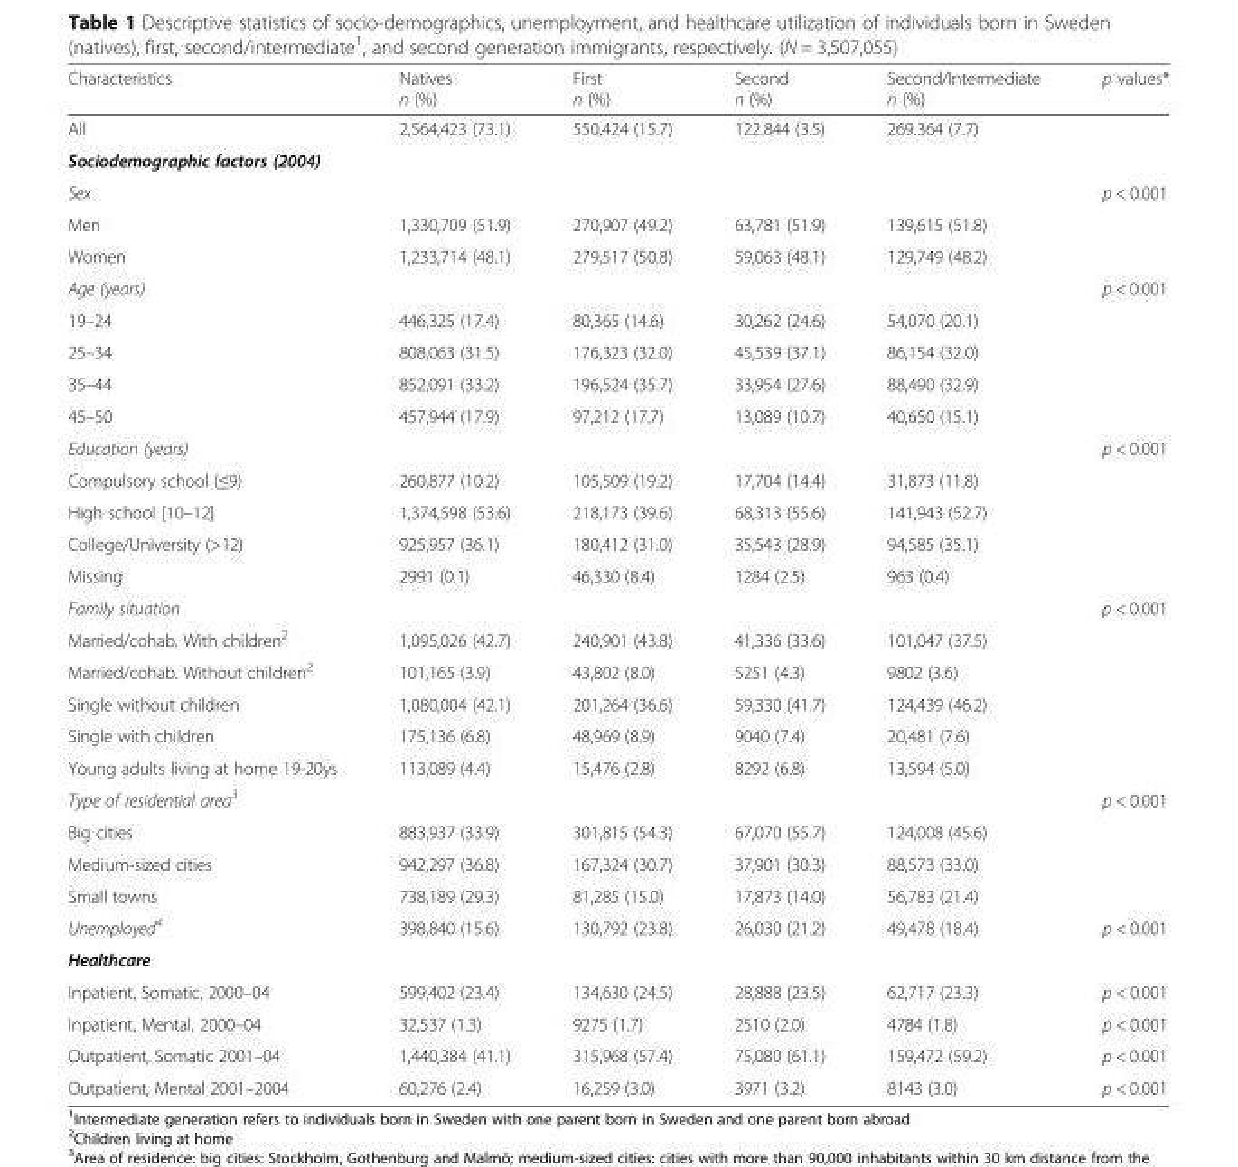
<table><thead><tr><td>Characteristics</td><td>Natives n (%)</td><td>First n (%)</td><td>Second n (%)</td><td>Second/Intermediate n (%)</td><td>p values*</td></tr></thead><tbody><tr><td>All</td><td>2,564,423 (73.1)</td><td>550,424 (15.7)</td><td>122.844 (3.5)</td><td>269.364 (7.7)</td><td></td></tr><tr><td colspan="6">Sociodemographic factors (2004)</td></tr><tr><td>Sex</td><td></td><td></td><td></td><td></td><td>p &lt; 0.001</td></tr><tr><td>Men</td><td>1,330,709 (51.9)</td><td>270,907 (49.2)</td><td>63,781 (51.9)</td><td>139,615 (51.8)</td><td></td></tr><tr><td>Women</td><td>1,233,714 (48.1)</td><td>279,517 (50.8)</td><td>59,063 (48.1)</td><td>129,749 (48.2)</td><td></td></tr><tr><td>Age (years)</td><td></td><td></td><td></td><td></td><td>p &lt; 0.001</td></tr><tr><td>19–24</td><td>446,325 (17.4)</td><td>80,365 (14.6)</td><td>30,262 (24.6)</td><td>54,070 (20.1)</td><td></td></tr><tr><td>25–34</td><td>808,063 (31.5)</td><td>176,323 (32.0)</td><td>45,539 (37.1)</td><td>86,154 (32.0)</td><td></td></tr><tr><td>35–44</td><td>852,091 (33.2)</td><td>196,524 (35.7)</td><td>33,954 (27.6)</td><td>88,490 (32.9)</td><td></td></tr><tr><td>45–50</td><td>457,944 (17.9)</td><td>97,212 (17.7)</td><td>13,089 (10.7)</td><td>40,650 (15.1)</td><td></td></tr><tr><td>Education (years)</td><td></td><td></td><td></td><td></td><td>p &lt; 0.001</td></tr><tr><td>Compulsory school (≤9)</td><td>260,877 (10.2)</td><td>105,509 (19.2)</td><td>17,704 (14.4)</td><td>31,873 (11.8)</td><td></td></tr><tr><td>High school [10–12]</td><td>1,374,598 (53.6)</td><td>218,173 (39.6)</td><td>68,313 (55.6)</td><td>141,943 (52.7)</td><td></td></tr><tr><td>College/University (&gt;12)</td><td>925,957 (36.1)</td><td>180,412 (31.0)</td><td>35,543 (28.9)</td><td>94,585 (35.1)</td><td></td></tr><tr><td>Missing</td><td>2991 (0.1)</td><td>46,330 (8.4)</td><td>1284 (2.5)</td><td>963 (0.4)</td><td></td></tr><tr><td>Family situation</td><td></td><td></td><td></td><td></td><td>p &lt; 0.001</td></tr><tr><td>Married/cohab. With children<sup>2</sup></td><td>1,095,026 (42.7)</td><td>240,901 (43.8)</td><td>41,336 (33.6)</td><td>101,047 (37.5)</td><td></td></tr><tr><td>Married/cohab. Without children<sup>2</sup></td><td>101,165 (3.9)</td><td>43,802 (8.0)</td><td>5251 (4.3)</td><td>9802 (3.6)</td><td></td></tr><tr><td>Single without children</td><td>1,080,004 (42.1)</td><td>201,264 (36.6)</td><td>59,330 (41.7)</td><td>124,439 (46.2)</td><td></td></tr><tr><td>Single with children</td><td>175,136 (6.8)</td><td>48,969 (8.9)</td><td>9040 (7.4)</td><td>20,481 (7.6)</td><td></td></tr><tr><td>Young adults living at home 19-20ys</td><td>113,089 (4.4)</td><td>15,476 (2.8)</td><td>8292 (6.8)</td><td>13,594 (5.0)</td><td></td></tr><tr><td>Type of residential area<sup>3</sup></td><td></td><td></td><td></td><td></td><td>p &lt; 0.001</td></tr><tr><td>Big cities</td><td>883,937 (33.9)</td><td>301,815 (54.3)</td><td>67,070 (55.7)</td><td>124,008 (45.6)</td><td></td></tr><tr><td>Medium-sized cities</td><td>942,297 (36.8)</td><td>167,324 (30.7)</td><td>37,901 (30.3)</td><td>88,573 (33.0)</td><td></td></tr><tr><td>Small towns</td><td>738,189 (29.3)</td><td>81,285 (15.0)</td><td>17,873 (14.0)</td><td>56,783 (21.4)</td><td></td></tr><tr><td>Unemployed<sup>4</sup></td><td>398,840 (15.6)</td><td>130,792 (23.8)</td><td>26,030 (21.2)</td><td>49,478 (18.4)</td><td>p &lt; 0.001</td></tr><tr><td colspan="6">Healthcare</td></tr><tr><td>Inpatient, Somatic, 2000–04</td><td>599,402 (23.4)</td><td>134,630 (24.5)</td><td>28,888 (23.5)</td><td>62,717 (23.3)</td><td>p &lt; 0.001</td></tr><tr><td>Inpatient, Mental, 2000–04</td><td>32,537 (1.3)</td><td>9275 (1.7)</td><td>2510 (2.0)</td><td>4784 (1.8)</td><td>p &lt; 0.001</td></tr><tr><td>Outpatient, Somatic 2001–04</td><td>1,440,384 (41.1)</td><td>315,968 (57.4)</td><td>75,080 (61.1)</td><td>159,472 (59.2)</td><td>p &lt; 0.001</td></tr><tr><td>Outpatient, Mental 2001–2004</td><td>60,276 (2.4)</td><td>16,259 (3.0)</td><td>3971 (3.2)</td><td>8143 (3.0)</td><td>p &lt; 0.001</td></tr></tbody></table>